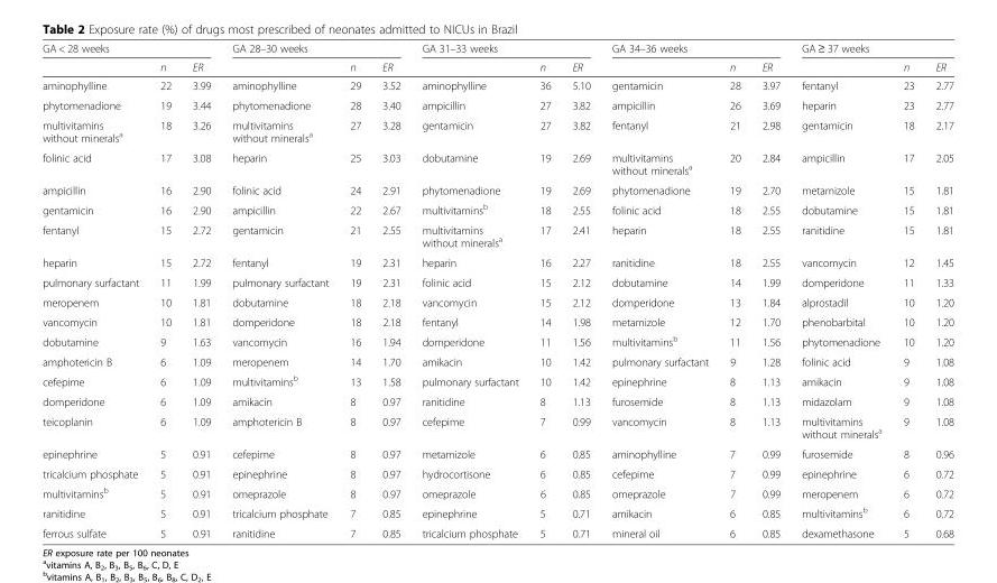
<table><thead><tr><td colspan="3">GA &lt; 28 weeks</td><td colspan="3">GA 28–30 weeks</td><td colspan="3">GA 31–33 weeks</td><td colspan="3">GA 34–36 weeks</td><td colspan="3">GA ≥ 37 weeks</td></tr><tr><td></td><td>n</td><td>ER</td><td></td><td>n</td><td>ER</td><td></td><td>n</td><td>ER</td><td></td><td>n</td><td>ER</td><td></td><td>n</td><td>ER</td></tr></thead><tbody><tr><td>aminophylline</td><td>22</td><td>3.99</td><td>aminophylline</td><td>29</td><td>3.52</td><td>aminophylline</td><td>36</td><td>5.10</td><td>gentamicin</td><td>28</td><td>3.97</td><td>fentanyl</td><td>23</td><td>2.77</td></tr><tr><td>phytomenadione</td><td>19</td><td>3.44</td><td>phytomenadione</td><td>28</td><td>3.40</td><td>ampicillin</td><td>27</td><td>3.82</td><td>ampicillin</td><td>26</td><td>3.69</td><td>heparin</td><td>23</td><td>2.77</td></tr><tr><td>multivitamins without minerals<sup>a</sup></td><td>18</td><td>3.26</td><td>multivitamins without minerals<sup>a</sup></td><td>27</td><td>3.28</td><td>gentamicin</td><td>27</td><td>3.82</td><td>fentanyl</td><td>21</td><td>2.98</td><td>gentamicin</td><td>18</td><td>2.17</td></tr><tr><td>folinic acid</td><td>17</td><td>3.08</td><td>heparin</td><td>25</td><td>3.03</td><td>dobutamine</td><td>19</td><td>2.69</td><td>multivitamins without minerals<sup>a</sup></td><td>20</td><td>2.84</td><td>ampicillin</td><td>17</td><td>2.05</td></tr><tr><td>ampicillin</td><td>16</td><td>2.90</td><td>folinic acid</td><td>24</td><td>2.91</td><td>phytomenadione</td><td>19</td><td>2.69</td><td>phytomenadione</td><td>19</td><td>2.70</td><td>metamizole</td><td>15</td><td>1.81</td></tr><tr><td>gentamicin</td><td>16</td><td>2.90</td><td>ampicillin</td><td>22</td><td>2.67</td><td>multivitamins<sup>b</sup></td><td>18</td><td>2.55</td><td>folinic acid</td><td>18</td><td>2.55</td><td>dobutamine</td><td>15</td><td>1.81</td></tr><tr><td>fentanyl</td><td>15</td><td>2.72</td><td>gentamicin</td><td>21</td><td>2.55</td><td>multivitamins without minerals<sup>a</sup></td><td>17</td><td>2.41</td><td>heparin</td><td>18</td><td>2.55</td><td>ranitidine</td><td>15</td><td>1.81</td></tr><tr><td>heparin</td><td>15</td><td>2.72</td><td>fentanyl</td><td>19</td><td>2.31</td><td>heparin</td><td>16</td><td>2.27</td><td>ranitidine</td><td>18</td><td>2.55</td><td>vancomycin</td><td>12</td><td>1.45</td></tr><tr><td>pulmonary surfactant</td><td>11</td><td>1.99</td><td>pulmonary surfactant</td><td>19</td><td>2.31</td><td>folinic acid</td><td>15</td><td>2.12</td><td>dobutamine</td><td>14</td><td>1.99</td><td>domperidone</td><td>11</td><td>1.33</td></tr><tr><td>meropenem</td><td>10</td><td>1.81</td><td>dobutamine</td><td>18</td><td>2.18</td><td>vancomycin</td><td>15</td><td>2.12</td><td>domperidone</td><td>13</td><td>1.84</td><td>alprostadil</td><td>10</td><td>1.20</td></tr><tr><td>vancomycin</td><td>10</td><td>1.81</td><td>domperidone</td><td>18</td><td>2.18</td><td>fentanyl</td><td>14</td><td>1.98</td><td>metamizole</td><td>12</td><td>1.70</td><td>phenobarbital</td><td>10</td><td>1.20</td></tr><tr><td>dobutamine</td><td>9</td><td>1.63</td><td>vancomycin</td><td>16</td><td>1.94</td><td>domperidone</td><td>11</td><td>1.56</td><td>multivitamins<sup>b</sup></td><td>11</td><td>1.56</td><td>phytomenadione</td><td>10</td><td>1.20</td></tr><tr><td>amphotericin B</td><td>6</td><td>1.09</td><td>meropenem</td><td>14</td><td>1.70</td><td>amikacin</td><td>10</td><td>1.42</td><td>pulmonary surfactant</td><td>9</td><td>1.28</td><td>folinic acid</td><td>9</td><td>1.08</td></tr><tr><td>cefepime</td><td>6</td><td>1.09</td><td>multivitamins<sup>b</sup></td><td>13</td><td>1.58</td><td>pulmonary surfactant</td><td>10</td><td>1.42</td><td>epinephrine</td><td>8</td><td>1.13</td><td>amikacin</td><td>9</td><td>1.08</td></tr><tr><td>domperidone</td><td>6</td><td>1.09</td><td>amikacin</td><td>8</td><td>0.97</td><td>ranitidine</td><td>8</td><td>1.13</td><td>furosemide</td><td>8</td><td>1.13</td><td>midazolam</td><td>9</td><td>1.08</td></tr><tr><td>teicoplanin</td><td>6</td><td>1.09</td><td>amphotericin B</td><td>8</td><td>0.97</td><td>cefepime</td><td>7</td><td>0.99</td><td>vancomycin</td><td>8</td><td>1.13</td><td>multivitamins without minerals<sup>a</sup></td><td>9</td><td>1.08</td></tr><tr><td>epinephrine</td><td>5</td><td>0.91</td><td>cefepime</td><td>8</td><td>0.97</td><td>metamizole</td><td>6</td><td>0.85</td><td>aminophylline</td><td>7</td><td>0.99</td><td>furosemide</td><td>8</td><td>0.96</td></tr><tr><td>tricalcium phosphate</td><td>5</td><td>0.91</td><td>epinephrine</td><td>8</td><td>0.97</td><td>hydrocortisone</td><td>6</td><td>0.85</td><td>cefepime</td><td>7</td><td>0.99</td><td>epinephrine</td><td>6</td><td>0.72</td></tr><tr><td>multivitamins<sup>b</sup></td><td>5</td><td>0.91</td><td>omeprazole</td><td>8</td><td>0.97</td><td>omeprazole</td><td>6</td><td>0.85</td><td>omeprazole</td><td>7</td><td>0.99</td><td>meropenem</td><td>6</td><td>0.72</td></tr><tr><td>ranitidine</td><td>5</td><td>0.91</td><td>tricalcium phosphate</td><td>7</td><td>0.85</td><td>epinephrine</td><td>5</td><td>0.71</td><td>amikacin</td><td>6</td><td>0.85</td><td>multivitamins<sup>b</sup></td><td>6</td><td>0.72</td></tr><tr><td>ferrous sulfate</td><td>5</td><td>0.91</td><td>ranitidine</td><td>7</td><td>0.85</td><td>tricalcium phosphate</td><td>5</td><td>0.71</td><td>mineral oil</td><td>6</td><td>0.85</td><td>dexamethasone</td><td>5</td><td>0.68</td></tr></tbody></table>